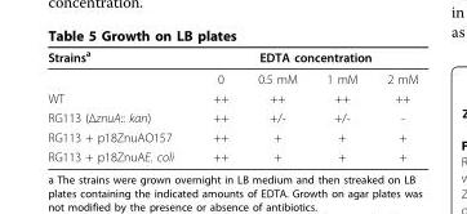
<table><thead><tr><td rowspan="2">Strains<sup>a</sup></td><td colspan="4">EDTA concentration</td></tr><tr><td>0</td><td>0.5 mM</td><td>1 mM</td><td>2 mM</td></tr></thead><tbody><tr><td>WT</td><td>++</td><td>++</td><td>++</td><td>++</td></tr><tr><td>RG113 (ΔznuA:: kan)</td><td>++</td><td>+/-</td><td>+/-</td><td>-</td></tr><tr><td>RG113 + p18ZnuAO157</td><td>++</td><td>+</td><td>+</td><td>+</td></tr><tr><td>RG113 + p18ZnuAE. coli</td><td>++</td><td>+</td><td>+</td><td>+</td></tr></tbody></table>